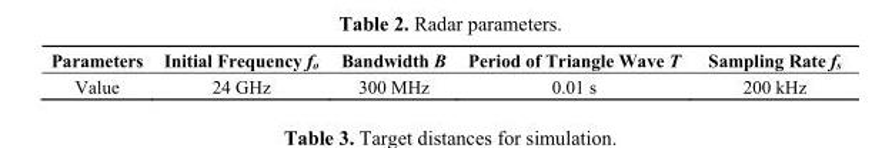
<table><thead><tr><td>Parameters</td><td>Initial Frequency f<sub>o</sub></td><td>Bandwidth B</td><td>Period of Triangle Wave T</td><td>Sampling Rate f<sub>s</sub></td></tr></thead><tbody><tr><td>Value</td><td>24 GHz</td><td>300 MHz</td><td>0.01 s</td><td>200 kHz</td></tr></tbody></table>